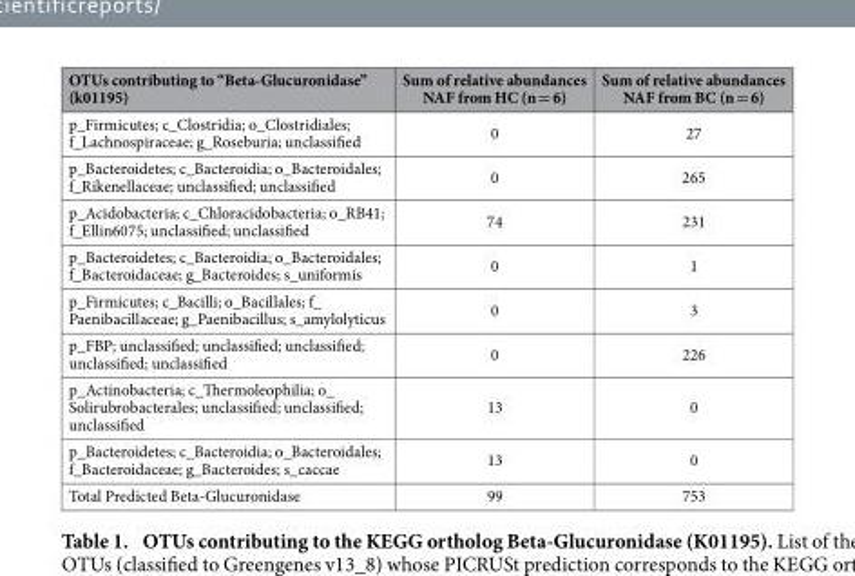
<table><thead><tr><td>OTUs contributing to “Beta-Glucuronidase” (k01195)</td><td>Sum of relative abundances NAF from HC (n = 6)</td><td>Sum of relative abundances NAF from BC (n = 6)</td></tr></thead><tbody><tr><td>p_Firmicutes; c_Clostridia; o_Clostridiales; f_Lachnospiraceae; g_Roseburia; unclassified</td><td>0</td><td>27</td></tr><tr><td>p_Bacteroidetes; c_Bacteroidia; o_Bacteroidales; f_Rikenellaceae; unclassified; unclassified</td><td>0</td><td>265</td></tr><tr><td>p_Acidobacteria; c_Chloracidobacteria; o_RB41; f_Ellin6075; unclassified; unclassified</td><td>74</td><td>231</td></tr><tr><td>p_Bacteroidetes; c_Bacteroidia; o_Bacteroidales; f_Bacteroidaceae; g_Bacteroides; s_uniformis</td><td>0</td><td>1</td></tr><tr><td>p_Firmicutes; c_Bacilli; o_Bacillales; f_ Paenibacillaceae; g_Paenibacillus; s_amylolyticus</td><td>0</td><td>3</td></tr><tr><td>p_FBP; unclassified; unclassified; unclassified; unclassified; unclassified</td><td>0</td><td>226</td></tr><tr><td>p_Actinobacteria; c_Thermoleophilia; o_ Solirubrobacterales; unclassified; unclassified; unclassified</td><td>13</td><td>0</td></tr><tr><td>p_Bacteroidetes; c_Bacteroidia; o_Bacteroidales; f_Bacteroidaceae; g_Bacteroides; s_caccae</td><td>13</td><td>0</td></tr><tr><td>Total Predicted Beta-Glucuronidase</td><td>99</td><td>753</td></tr></tbody></table>